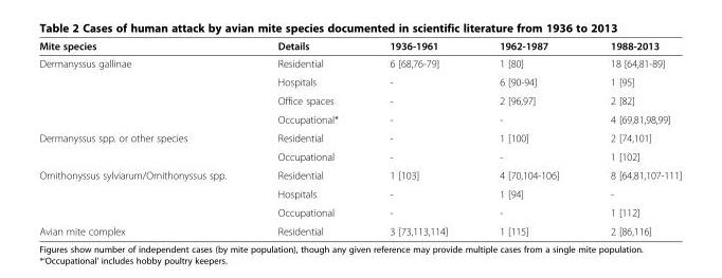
<table><thead><tr><td>Mite species</td><td>Details</td><td>1936-1961</td><td>1962-1987</td><td>1988-2013</td></tr></thead><tbody><tr><td rowspan="4">Dermanyssus gallinae</td><td>Residential</td><td>6 [68,76-79]</td><td>1 [80]</td><td>18 [64,81-89]</td></tr><tr><td>Hospitals</td><td>-</td><td>6 [90-94]</td><td>1 [95]</td></tr><tr><td>Office spaces</td><td>-</td><td>2 [96,97]</td><td>2 [82]</td></tr><tr><td>Occupational*</td><td>-</td><td>-</td><td>4 [69,81,98,99]</td></tr><tr><td rowspan="2">Dermanyssus spp. or other species</td><td>Residential</td><td>-</td><td>1 [100]</td><td>2 [74,101]</td></tr><tr><td>Occupational</td><td>-</td><td>-</td><td>1 [102]</td></tr><tr><td rowspan="3">Ornithonyssus sylviarum/Ornithonyssus spp.</td><td>Residential</td><td>1 [103]</td><td>4 [70,104-106]</td><td>8 [64,81,107-111]</td></tr><tr><td>Hospitals</td><td>-</td><td>1 [94]</td><td>-</td></tr><tr><td>Occupational</td><td>-</td><td>-</td><td>1 [112]</td></tr><tr><td>Avian mite complex</td><td>Residential</td><td>3 [73,113,114]</td><td>1 [115]</td><td>2 [86,116]</td></tr></tbody></table>